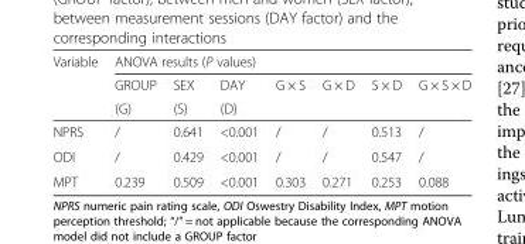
<table><thead><tr><td rowspan="3">Variable</td><td colspan="7">ANOVA results (P values)</td></tr><tr><td rowspan="2">GROUP (G)</td><td rowspan="2">SEX (S)</td><td rowspan="2">DAY (D)</td><td rowspan="2">G × S</td><td rowspan="2">G × D</td><td rowspan="2">S × D</td><td rowspan="2">G × S × D</td></tr><tr></tr></thead><tbody><tr><td>NPRS</td><td>/</td><td>0.641</td><td>&lt;0.001</td><td>/</td><td>/</td><td>0.513</td><td>/</td></tr><tr><td>ODI</td><td>/</td><td>0.429</td><td>&lt;0.001</td><td>/</td><td>/</td><td>0.547</td><td>/</td></tr><tr><td>MPT</td><td>0.239</td><td>0.509</td><td>&lt;0.001</td><td>0.303</td><td>0.271</td><td>0.253</td><td>0.088</td></tr></tbody></table>